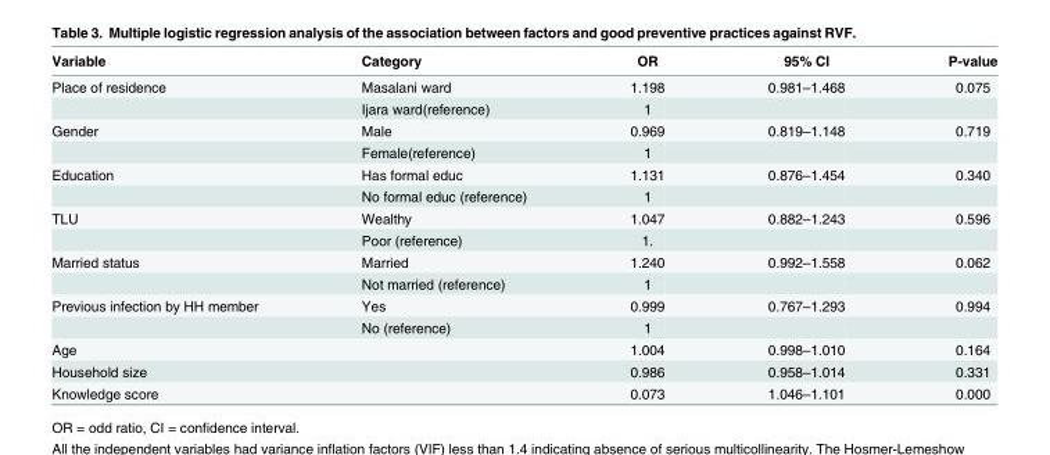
<table><thead><tr><td>Variable</td><td>Category</td><td>OR</td><td>95% CI</td><td>P-value</td></tr></thead><tbody><tr><td rowspan="2">Place of residence</td><td>Masalani ward</td><td>1.198</td><td>0.981–1.468</td><td>0.075</td></tr><tr><td>Ijara ward(reference)</td><td>1</td><td></td><td></td></tr><tr><td rowspan="2">Gender</td><td>Male</td><td>0.969</td><td>0.819–1.148</td><td>0.719</td></tr><tr><td>Female(reference)</td><td>1</td><td></td><td></td></tr><tr><td rowspan="2">Education</td><td>Has formal educ</td><td>1.131</td><td>0.876–1.454</td><td>0.340</td></tr><tr><td>No formal educ (reference)</td><td>1</td><td></td><td></td></tr><tr><td rowspan="2">TLU</td><td>Wealthy</td><td>1.047</td><td>0.882–1.243</td><td>0.596</td></tr><tr><td>Poor (reference)</td><td>1.</td><td></td><td></td></tr><tr><td rowspan="2">Married status</td><td>Married</td><td>1.240</td><td>0.992–1.558</td><td>0.062</td></tr><tr><td>Not married (reference)</td><td>1</td><td></td><td></td></tr><tr><td rowspan="2">Previous infection by HH member</td><td>Yes</td><td>0.999</td><td>0.767–1.293</td><td>0.994</td></tr><tr><td>No (reference)</td><td>1</td><td></td><td></td></tr><tr><td>Age</td><td></td><td>1.004</td><td>0.998–1.010</td><td>0.164</td></tr><tr><td>Household size</td><td></td><td>0.986</td><td>0.958–1.014</td><td>0.331</td></tr><tr><td>Knowledge score</td><td></td><td>0.073</td><td>1.046–1.101</td><td>0.000</td></tr></tbody></table>